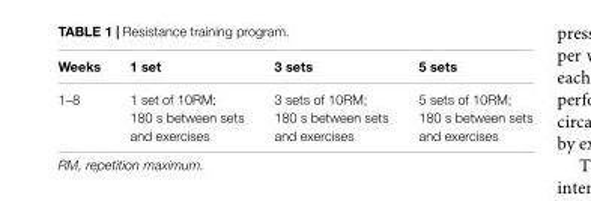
<table><thead><tr><td>Weeks</td><td>1 set</td><td>3 sets</td><td>5 sets</td></tr></thead><tbody><tr><td>1–8</td><td>1 set of 10RM; 180 s between sets and exercises</td><td>3 sets of 10RM; 180 s between sets and exercises</td><td>5 sets of 10RM; 180 s between sets and exercises</td></tr></tbody></table>